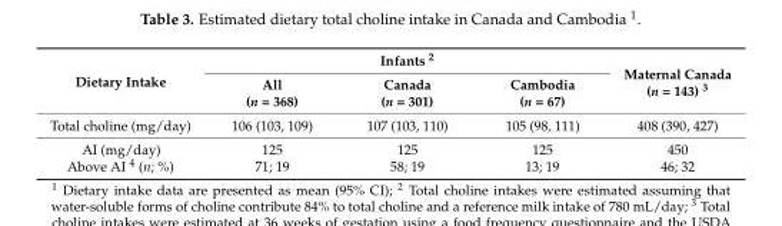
<table><thead><tr><td rowspan="2">Dietary Intake</td><td colspan="3">Infants <sup>2</sup></td><td rowspan="2">Maternal Canada (n = 143) <sup>3</sup></td></tr><tr><td>All (n = 368)</td><td>Canada (n = 301)</td><td>Cambodia (n = 67)</td></tr></thead><tbody><tr><td>Total choline (mg/day)</td><td>106 (103, 109)</td><td>107 (103, 110)</td><td>105 (98, 111)</td><td>408 (390, 427)</td></tr><tr><td>AI (mg/day) Above AI <sup>4</sup> (n; %)</td><td>125 71; 19</td><td>125 58; 19</td><td>125 13; 19</td><td>450 46; 32</td></tr></tbody></table>